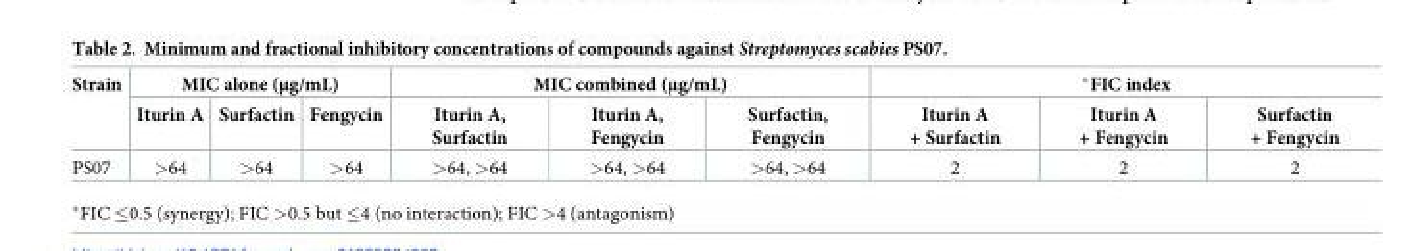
<table><thead><tr><td rowspan="2">Strain</td><td colspan="3">MIC alone (μg/mL)</td><td colspan="3">MIC combined (μg/mL)</td><td colspan="3">*FIC index</td></tr><tr><td>Iturin A</td><td>Surfactin</td><td>Fengycin</td><td>Iturin A, Surfactin</td><td>Iturin A, Fengycin</td><td>Surfactin, Fengycin</td><td>Iturin A + Surfactin</td><td>Iturin A + Fengycin</td><td>Surfactin + Fengycin</td></tr></thead><tbody><tr><td>PS07</td><td>&gt;64</td><td>&gt;64</td><td>&gt;64</td><td>&gt;64, &gt;64</td><td>&gt;64, &gt;64</td><td>&gt;64, &gt;64</td><td>2</td><td>2</td><td>2</td></tr></tbody></table>